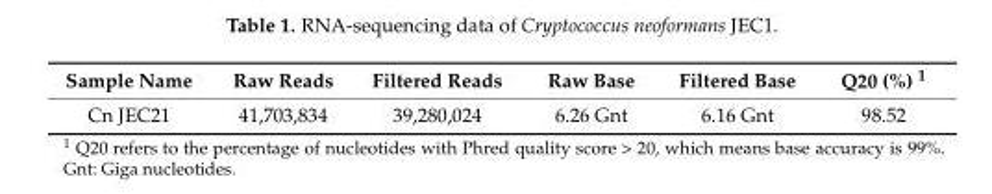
<table><thead><tr><td>Sample Name</td><td>Raw Reads</td><td>Filtered Reads</td><td>Raw Base</td><td>Filtered Base</td><td>Q20 (%) <sup>1</sup></td></tr></thead><tbody><tr><td>Cn JEC21</td><td>41,703,834</td><td>39,280,024</td><td>6.26 Gnt</td><td>6.16 Gnt</td><td>98.52</td></tr></tbody></table>